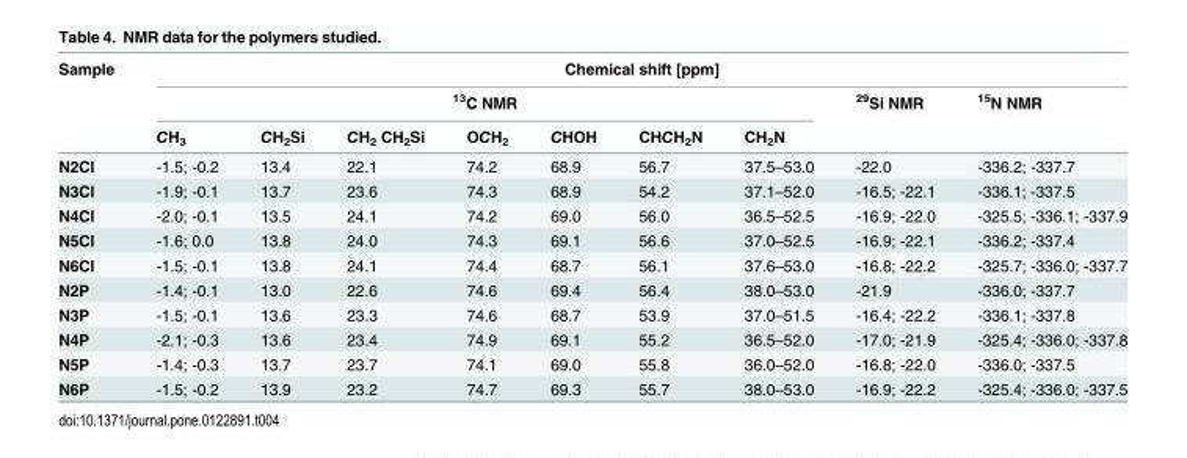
<table><thead><tr><td rowspan="3">Sample</td><td colspan="9">Chemical shift [ppm]</td></tr><tr><td colspan="7"><sup>13</sup>C NMR</td><td rowspan="2"><sup>29</sup>Si NMR</td><td rowspan="2"><sup>15</sup>N NMR</td></tr><tr><td>CH<sub>3</sub></td><td>CH<sub>2</sub>Si</td><td>CH<sub>2</sub> CH<sub>2</sub>Si</td><td>OCH<sub>2</sub></td><td>CHOH</td><td>CHCH<sub>2</sub>N</td><td>CH<sub>2</sub>N</td></tr></thead><tbody><tr><td>N2Cl</td><td>-1.5; -0.2</td><td>13.4</td><td>22.1</td><td>74.2</td><td>68.9</td><td>56.7</td><td>37.5–53.0</td><td>-22.0</td><td>-336.2; -337.7</td></tr><tr><td>N3Cl</td><td>-1.9; -0.1</td><td>13.7</td><td>23.6</td><td>74.3</td><td>68.9</td><td>54.2</td><td>37.1–52.0</td><td>-16.5; -22.1</td><td>-336.1; -337.5</td></tr><tr><td>N4Cl</td><td>-2.0; -0.1</td><td>13.5</td><td>24.1</td><td>74.2</td><td>69.0</td><td>56.0</td><td>36.5–52.5</td><td>-16.9; -22.0</td><td>-325.5; -336.1; -337.9</td></tr><tr><td>N5Cl</td><td>-1.6; 0.0</td><td>13.8</td><td>24.0</td><td>74.3</td><td>69.1</td><td>56.6</td><td>37.0–52.5</td><td>-16.9; -22.1</td><td>-336.2; -337.4</td></tr><tr><td>N6Cl</td><td>-1.5; -0.1</td><td>13.8</td><td>24.1</td><td>74.4</td><td>68.7</td><td>56.1</td><td>37.6–53.0</td><td>-16.8; -22.2</td><td>-325.7; -336.0; -337.7</td></tr><tr><td>N2P</td><td>-1.4; -0.1</td><td>13.0</td><td>22.6</td><td>74.6</td><td>69.4</td><td>56.4</td><td>38.0–53.0</td><td>-21.9</td><td>-336.0; -337.7</td></tr><tr><td>N3P</td><td>-1.5; -0.1</td><td>13.6</td><td>23.3</td><td>74.6</td><td>68.7</td><td>53.9</td><td>37.0–51.5</td><td>-16.4; -22.2</td><td>-336.1; -337.8</td></tr><tr><td>N4P</td><td>-2.1; -0.3</td><td>13.6</td><td>23.4</td><td>74.9</td><td>69.1</td><td>55.2</td><td>36.5–52.0</td><td>-17.0; -21.9</td><td>-325.4; -336.0; -337.8</td></tr><tr><td>N5P</td><td>-1.4; -0.3</td><td>13.7</td><td>23.7</td><td>74.1</td><td>69.0</td><td>55.8</td><td>36.0–52.0</td><td>-16.8; -22.0</td><td>-336.0; -337.5</td></tr><tr><td>N6P</td><td>-1.5; -0.2</td><td>13.9</td><td>23.2</td><td>74.7</td><td>69.3</td><td>55.7</td><td>38.0–53.0</td><td>-16.9; -22.2</td><td>-325.4; -336.0; -337.5</td></tr></tbody></table>